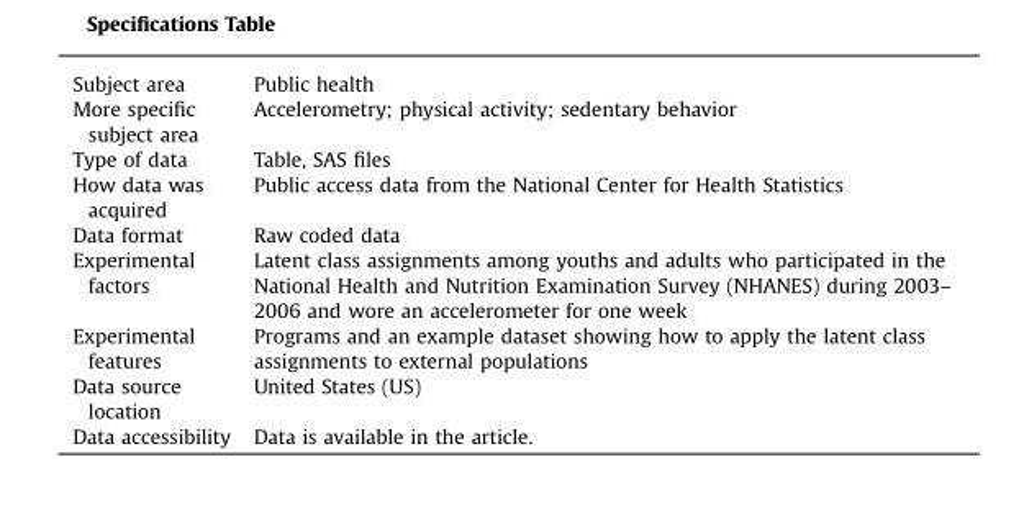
<table><tbody><tr><td>Subject area</td><td>Public health</td></tr><tr><td>More specific subject area</td><td>Accelerometry; physical activity; sedentary behavior</td></tr><tr><td>Type of data</td><td>Table, SAS files</td></tr><tr><td>How data was acquired</td><td>Public access data from the National Center for Health Statistics</td></tr><tr><td>Data format</td><td>Raw coded data</td></tr><tr><td>Experimental factors</td><td>Latent class assignments among youths and adults who participated in the National Health and Nutrition Examination Survey (NHANES) during 2003– 2006 and wore an accelerometer for one week</td></tr><tr><td>Experimental features</td><td>Programs and an example dataset showing how to apply the latent class assignments to external populations</td></tr><tr><td>Data source location</td><td>United States (US)</td></tr><tr><td>Data accessibility</td><td>Data is available in the article.</td></tr></tbody></table>